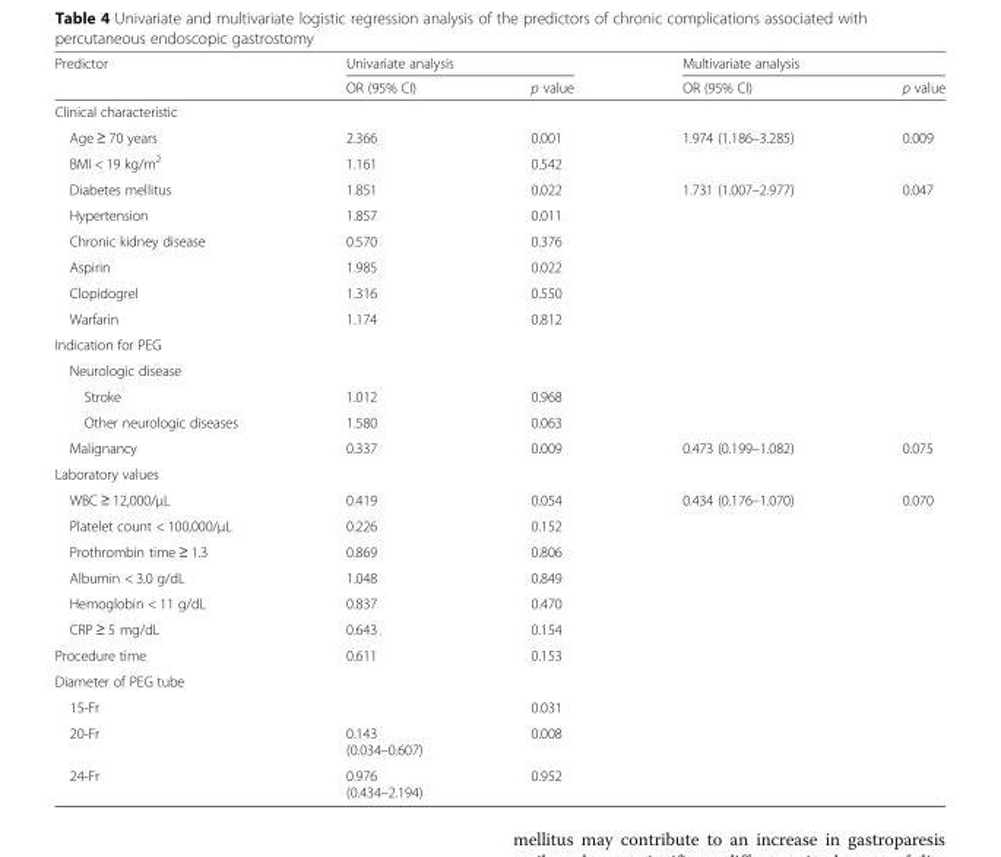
<table><thead><tr><td rowspan="2">Predictor</td><td colspan="2">Univariate analysis</td><td colspan="2">Multivariate analysis</td></tr><tr><td>OR (95% CI)</td><td>p value</td><td>OR (95% CI)</td><td>p value</td></tr></thead><tbody><tr><td colspan="5">Clinical characteristic</td></tr><tr><td>Age ≥ 70 years</td><td>2.366</td><td>0.001</td><td>1.974 (1.186–3.285)</td><td>0.009</td></tr><tr><td>BMI &lt; 19 kg/m<sup>2</sup></td><td>1.161</td><td>0.542</td><td></td><td></td></tr><tr><td>Diabetes mellitus</td><td>1.851</td><td>0.022</td><td>1.731 (1.007–2.977)</td><td>0.047</td></tr><tr><td>Hypertension</td><td>1.857</td><td>0.011</td><td></td><td></td></tr><tr><td>Chronic kidney disease</td><td>0.570</td><td>0.376</td><td></td><td></td></tr><tr><td>Aspirin</td><td>1.985</td><td>0.022</td><td></td><td></td></tr><tr><td>Clopidogrel</td><td>1.316</td><td>0.550</td><td></td><td></td></tr><tr><td>Warfarin</td><td>1.174</td><td>0.812</td><td></td><td></td></tr><tr><td colspan="5">Indication for PEG</td></tr><tr><td colspan="5">Neurologic disease</td></tr><tr><td>Stroke</td><td>1.012</td><td>0.968</td><td></td><td></td></tr><tr><td>Other neurologic diseases</td><td>1.580</td><td>0.063</td><td></td><td></td></tr><tr><td>Malignancy</td><td>0.337</td><td>0.009</td><td>0.473 (0.199–1.082)</td><td>0.075</td></tr><tr><td colspan="5">Laboratory values</td></tr><tr><td>WBC ≥ 12,000/μL</td><td>0.419</td><td>0.054</td><td>0.434 (0.176–1.070)</td><td>0.070</td></tr><tr><td>Platelet count &lt; 100,000/μL</td><td>0.226</td><td>0.152</td><td></td><td></td></tr><tr><td>Prothrombin time ≥ 1.3</td><td>0.869</td><td>0.806</td><td></td><td></td></tr><tr><td>Albumin &lt; 3.0 g/dL</td><td>1.048</td><td>0.849</td><td></td><td></td></tr><tr><td>Hemoglobin &lt; 11 g/dL</td><td>0.837</td><td>0.470</td><td></td><td></td></tr><tr><td>CRP ≥ 5 mg/dL</td><td>0.643</td><td>0.154</td><td></td><td></td></tr><tr><td>Procedure time</td><td>0.611</td><td>0.153</td><td></td><td></td></tr><tr><td colspan="5">Diameter of PEG tube</td></tr><tr><td>15-Fr</td><td></td><td>0.031</td><td></td><td></td></tr><tr><td>20-Fr</td><td>0.143 (0.034–0.607)</td><td>0.008</td><td></td><td></td></tr><tr><td>24-Fr</td><td>0.976 (0.434–2.194)</td><td>0.952</td><td></td><td></td></tr></tbody></table>